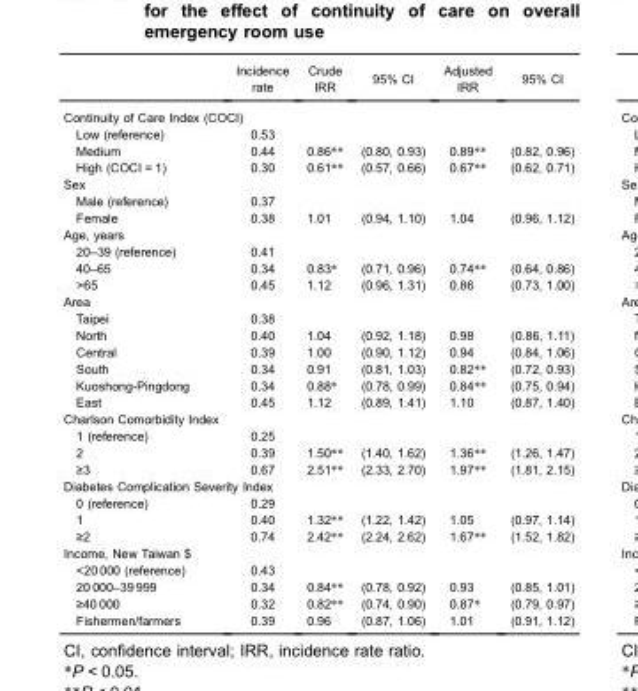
<table><thead><tr><td></td><td>Incidence rate</td><td>Crude IRR</td><td>95% CI</td><td>Adjusted IRR</td><td>95% CI</td></tr></thead><tbody><tr><td colspan="6">Continuity of Care Index (COCI)</td></tr><tr><td>Low (reference)</td><td>0.53</td><td></td><td></td><td></td><td></td></tr><tr><td>Medium</td><td>0.44</td><td>0.86**</td><td>(0.80, 0.93)</td><td>0.89**</td><td>(0.82, 0.96)</td></tr><tr><td>High (COCI = 1)</td><td>0.30</td><td>0.61**</td><td>(0.57, 0.66)</td><td>0.67**</td><td>(0.62, 0.71)</td></tr><tr><td colspan="6">Sex</td></tr><tr><td>Male (reference)</td><td>0.37</td><td></td><td></td><td></td><td></td></tr><tr><td>Female</td><td>0.38</td><td>1.01</td><td>(0.94, 1.10)</td><td>1.04</td><td>(0.96, 1.12)</td></tr><tr><td colspan="6">Age, years</td></tr><tr><td>20–39 (reference)</td><td>0.41</td><td></td><td></td><td></td><td></td></tr><tr><td>40–65</td><td>0.34</td><td>0.83*</td><td>(0.71, 0.96)</td><td>0.74**</td><td>(0.64, 0.86)</td></tr><tr><td>&gt;65</td><td>0.45</td><td>1.12</td><td>(0.96, 1.31)</td><td>0.86</td><td>(0.73, 1.00)</td></tr><tr><td colspan="6">Area</td></tr><tr><td>Taipei</td><td>0.38</td><td></td><td></td><td></td><td></td></tr><tr><td>North</td><td>0.40</td><td>1.04</td><td>(0.92, 1.18)</td><td>0.98</td><td>(0.86, 1.11)</td></tr><tr><td>Central</td><td>0.39</td><td>1.00</td><td>(0.90, 1.12)</td><td>0.94</td><td>(0.84, 1.06)</td></tr><tr><td>South</td><td>0.34</td><td>0.91</td><td>(0.81, 1.03)</td><td>0.82**</td><td>(0.72, 0.93)</td></tr><tr><td>Kuoshong-Pingdong</td><td>0.34</td><td>0.88*</td><td>(0.78, 0.99)</td><td>0.84**</td><td>(0.75, 0.94)</td></tr><tr><td>East</td><td>0.45</td><td>1.12</td><td>(0.89, 1.41)</td><td>1.10</td><td>(0.87, 1.40)</td></tr><tr><td colspan="6">Charlson Comorbidity Index</td></tr><tr><td>1 (reference)</td><td>0.25</td><td></td><td></td><td></td><td></td></tr><tr><td>2</td><td>0.39</td><td>1.50**</td><td>(1.40, 1.62)</td><td>1.36**</td><td>(1.26, 1.47)</td></tr><tr><td>≥3</td><td>0.67</td><td>2.51**</td><td>(2.33, 2.70)</td><td>1.97**</td><td>(1.81, 2.15)</td></tr><tr><td colspan="6">Diabetes Complication Severity Index</td></tr><tr><td>0 (reference)</td><td>0.29</td><td></td><td></td><td></td><td></td></tr><tr><td>1</td><td>0.40</td><td>1.32**</td><td>(1.22, 1.42)</td><td>1.05</td><td>(0.97, 1.14)</td></tr><tr><td>≥2</td><td>0.74</td><td>2.42**</td><td>(2.24, 2.62)</td><td>1.67**</td><td>(1.52, 1.82)</td></tr><tr><td colspan="6">Income, New Taiwan $</td></tr><tr><td>&lt;20 000 (reference)</td><td>0.43</td><td></td><td></td><td></td><td></td></tr><tr><td>20 000–39 999</td><td>0.34</td><td>0.84**</td><td>(0.78, 0.92)</td><td>0.93</td><td>(0.85, 1.01)</td></tr><tr><td>≥40 000</td><td>0.32</td><td>0.82**</td><td>(0.74, 0.90)</td><td>0.87*</td><td>(0.79, 0.97)</td></tr><tr><td>Fishermen/farmers</td><td>0.39</td><td>0.96</td><td>(0.87, 1.06)</td><td>1.01</td><td>(0.91, 1.12)</td></tr></tbody></table>